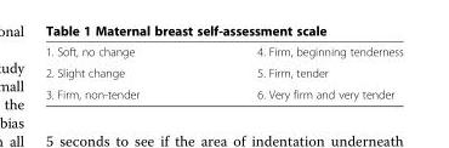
<table><tbody><tr><td>1. Soft, no change</td><td>4. Firm, beginning tenderness</td></tr><tr><td>2. Slight change</td><td>5. Firm, tender</td></tr><tr><td>3. Firm, non-tender</td><td>6. Very firm and very tender</td></tr></tbody></table>